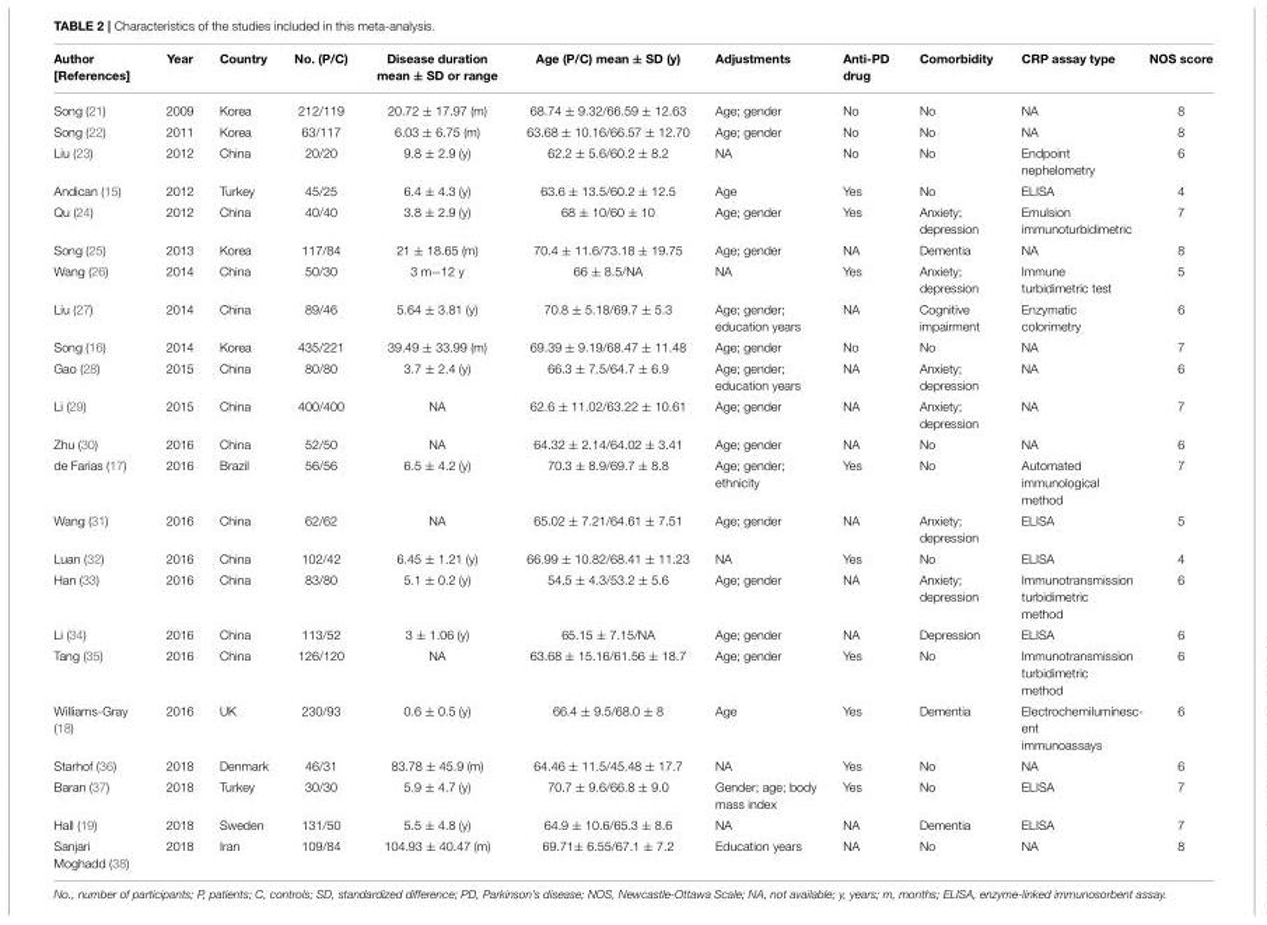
<table><thead><tr><td>Author [References]</td><td>Year</td><td>Country</td><td>No. (P/C)</td><td>Disease duration mean ± SD or range</td><td>Age (P/C) mean ± SD (y)</td><td>Adjustments</td><td>Anti-PD drug</td><td>Comorbidity</td><td>CRP assay type</td><td>NOS score</td></tr></thead><tbody><tr><td>Song (21)</td><td>2009</td><td>Korea</td><td>212/119</td><td>20.72 ± 17.97 (m)</td><td>68.74 ± 9.32/66.59 ± 12.63</td><td>Age; gender</td><td>No</td><td>No</td><td>NA</td><td>8</td></tr><tr><td>Song (22)</td><td>2011</td><td>Korea</td><td>63/117</td><td>6.03 ± 6.75 (m)</td><td>63.68 ± 10.16/66.57 ± 12.70</td><td>Age; gender</td><td>No</td><td>No</td><td>NA</td><td>8</td></tr><tr><td>Liu (23)</td><td>2012</td><td>China</td><td>20/20</td><td>9.8 ± 2.9 (y)</td><td>62.2 ± 5.6/60.2 ± 8.2</td><td>NA</td><td>No</td><td>No</td><td>Endpoint nephelometry</td><td>6</td></tr><tr><td>Andican (15)</td><td>2012</td><td>Turkey</td><td>45/25</td><td>6.4 ± 4.3 (y)</td><td>63.6 ± 13.5/60.2 ± 12.5</td><td>Age</td><td>Yes</td><td>No</td><td>ELISA</td><td>4</td></tr><tr><td>Qu (24)</td><td>2012</td><td>China</td><td>40/40</td><td>3.8 ± 2.9 (y)</td><td>68 ± 10/60 ± 10</td><td>Age; gender</td><td>Yes</td><td>Anxiety; depression</td><td>Emulsion immunoturbidimetric</td><td>7</td></tr><tr><td>Song (25)</td><td>2013</td><td>Korea</td><td>117/84</td><td>21 ± 18.65 (m)</td><td>70.4 ± 11.6/73.18 ± 19.75</td><td>Age; gender</td><td>NA</td><td>Dementia</td><td>NA</td><td>8</td></tr><tr><td>Wang (26)</td><td>2014</td><td>China</td><td>50/30</td><td>3 m−12 y</td><td>66 ± 8.5/NA</td><td>NA</td><td>Yes</td><td>Anxiety; depression</td><td>Immune turbidimetric test</td><td>5</td></tr><tr><td>Liu (27)</td><td>2014</td><td>China</td><td>89/46</td><td>5.64 ± 3.81 (y)</td><td>70.8 ± 5.18/69.7 ± 5.3</td><td>Age; gender; education years</td><td>NA</td><td>Cognitive impairment</td><td>Enzymatic colorimetry</td><td>6</td></tr><tr><td>Song (16)</td><td>2014</td><td>Korea</td><td>435/221</td><td>39.49 ± 33.99 (m)</td><td>69.39 ± 9.19/68.47 ± 11.48</td><td>Age; gender</td><td>No</td><td>No</td><td>NA</td><td>7</td></tr><tr><td>Gao (28)</td><td>2015</td><td>China</td><td>80/80</td><td>3.7 ± 2.4 (y)</td><td>66.3 ± 7.5/64.7 ± 6.9</td><td>Age; gender; education years</td><td>NA</td><td>Anxiety; depression</td><td>NA</td><td>6</td></tr><tr><td>Li (29)</td><td>2015</td><td>China</td><td>400/400</td><td>NA</td><td>62.6 ± 11.02/63.22 ± 10.61</td><td>Age; gender</td><td>NA</td><td>Anxiety; depression</td><td>NA</td><td>7</td></tr><tr><td>Zhu (30)</td><td>2016</td><td>China</td><td>52/50</td><td>NA</td><td>64.32 ± 2.14/64.02 ± 3.41</td><td>Age; gender</td><td>NA</td><td>No</td><td>NA</td><td>6</td></tr><tr><td>de Farias (17)</td><td>2016</td><td>Brazil</td><td>56/56</td><td>6.5 ± 4.2 (y)</td><td>70.3 ± 8.9/69.7 ± 8.8</td><td>Age; gender; ethnicity</td><td>Yes</td><td>No</td><td>Automated immunological method</td><td>7</td></tr><tr><td>Wang (31)</td><td>2016</td><td>China</td><td>62/62</td><td>NA</td><td>65.02 ± 7.21/64.61 ± 7.51</td><td>Age; gender</td><td>NA</td><td>Anxiety; depression</td><td>ELISA</td><td>5</td></tr><tr><td>Luan (32)</td><td>2016</td><td>China</td><td>102/42</td><td>6.45 ± 1.21 (y)</td><td>66.99 ± 10.82/68.41 ± 11.23</td><td>NA</td><td>Yes</td><td>No</td><td>ELISA</td><td>4</td></tr><tr><td>Han (33)</td><td>2016</td><td>China</td><td>83/80</td><td>5.1 ± 0.2 (y)</td><td>54.5 ± 4.3/53.2 ± 5.6</td><td>Age; gender</td><td>NA</td><td>Anxiety; depression</td><td>Immunotransmission turbidimetric method</td><td>6</td></tr><tr><td>Li (34)</td><td>2016</td><td>China</td><td>113/52</td><td>3 ± 1.06 (y)</td><td>65.15 ± 7.15/NA</td><td>Age; gender</td><td>NA</td><td>Depression</td><td>ELISA</td><td>6</td></tr><tr><td>Tang (35)</td><td>2016</td><td>China</td><td>126/120</td><td>NA</td><td>63.68 ± 15.16/61.56 ± 18.7</td><td>Age; gender</td><td>Yes</td><td>No</td><td>Immunotransmission turbidimetric method</td><td>6</td></tr><tr><td>Williams-Gray (18)</td><td>2016</td><td>UK</td><td>230/93</td><td>0.6 ± 0.5 (y)</td><td>66.4 ± 9.5/68.0 ± 8</td><td>Age</td><td>Yes</td><td>Dementia</td><td>Electrochemiluminesc- ent immunoassays</td><td>6</td></tr><tr><td>Starhof (36)</td><td>2018</td><td>Denmark</td><td>46/31</td><td>83.78 ± 45.9 (m)</td><td>64.46 ± 11.5/45.48 ± 17.7</td><td>NA</td><td>Yes</td><td>No</td><td>NA</td><td>6</td></tr><tr><td>Baran (37)</td><td>2018</td><td>Turkey</td><td>30/30</td><td>5.9 ± 4.7 (y)</td><td>70.7 ± 9.6/66.8 ± 9.0</td><td>Gender; age; body mass index</td><td>Yes</td><td>No</td><td>ELISA</td><td>7</td></tr><tr><td>Hall (19)</td><td>2018</td><td>Sweden</td><td>131/50</td><td>5.5 ± 4.8 (y)</td><td>64.9 ± 10.6/65.3 ± 8.6</td><td>NA</td><td>NA</td><td>Dementia</td><td>ELISA</td><td>7</td></tr><tr><td>Sanjari Moghadd (38)</td><td>2018</td><td>Iran</td><td>109/84</td><td>104.93 ± 40.47 (m)</td><td>69.71± 6.55/67.1 ± 7.2</td><td>Education years</td><td>NA</td><td>No</td><td>NA</td><td>8</td></tr></tbody></table>